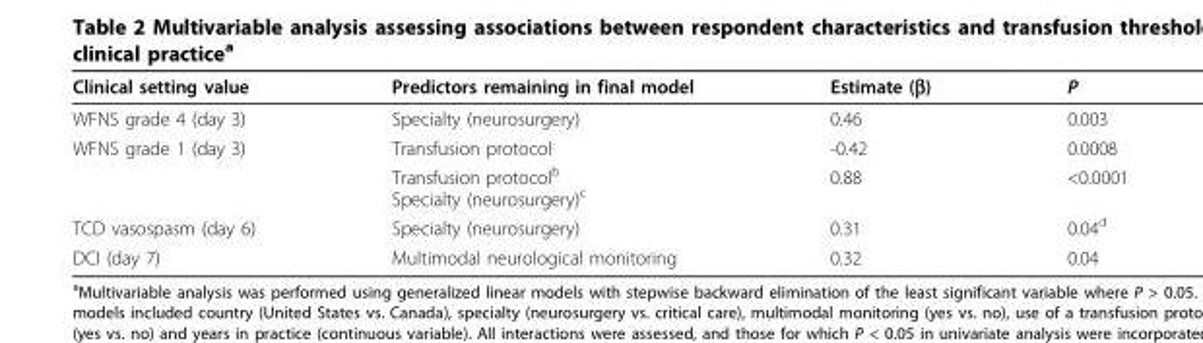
<table><thead><tr><td>Clinical setting value</td><td>Predictors remaining in final model</td><td>Estimate (β)</td><td>P</td></tr></thead><tbody><tr><td>WFNS grade 4 (day 3)</td><td>Specialty (neurosurgery)</td><td>0.46</td><td>0.003</td></tr><tr><td rowspan="2">WFNS grade 1 (day 3)</td><td>Transfusion protocol</td><td>-0.42</td><td>0.0008</td></tr><tr><td>Transfusion protocol<sup>b</sup> Specialty (neurosurgery)<sup>c</sup></td><td>0.88</td><td>&lt;0.0001</td></tr><tr><td>TCD vasospasm (day 6)</td><td>Specialty (neurosurgery)</td><td>0.31</td><td>0.04<sup>d</sup></td></tr><tr><td>DCI (day 7)</td><td>Multimodal neurological monitoring</td><td>0.32</td><td>0.04</td></tr></tbody></table>